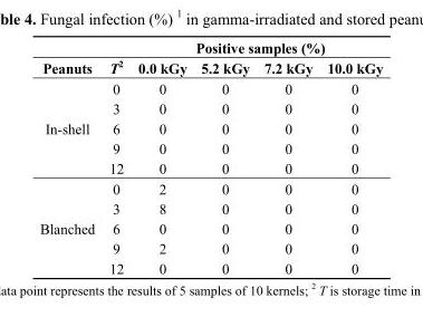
<table><thead><tr><td rowspan="2">Peanuts</td><td rowspan="2">T<sup>2</sup></td><td colspan="4">Positive samples (%)</td></tr><tr><td>0.0 kGy</td><td>5.2 kGy</td><td>7.2 kGy</td><td>10.0 kGy</td></tr></thead><tbody><tr><td rowspan="5">In-shell</td><td>0</td><td>0</td><td>0</td><td>0</td><td>0</td></tr><tr><td>3</td><td>0</td><td>0</td><td>0</td><td>0</td></tr><tr><td>6</td><td>0</td><td>0</td><td>0</td><td>0</td></tr><tr><td>9</td><td>0</td><td>0</td><td>0</td><td>0</td></tr><tr><td>12</td><td>0</td><td>0</td><td>0</td><td>0</td></tr><tr><td rowspan="5">Blanched</td><td>0</td><td>2</td><td>0</td><td>0</td><td>0</td></tr><tr><td>3</td><td>8</td><td>0</td><td>0</td><td>0</td></tr><tr><td>6</td><td>0</td><td>0</td><td>0</td><td>0</td></tr><tr><td>9</td><td>2</td><td>0</td><td>0</td><td>0</td></tr><tr><td>12</td><td>0</td><td>0</td><td>0</td><td>0</td></tr></tbody></table>